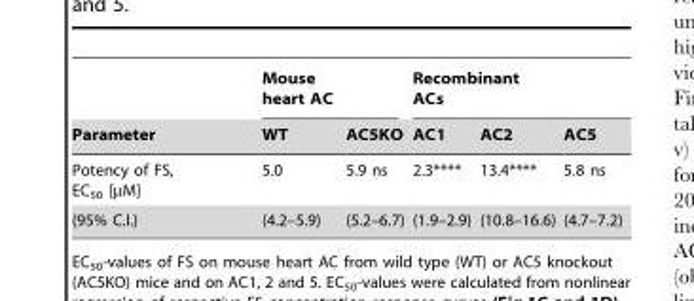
<table><thead><tr><td rowspan="2">Parameter</td><td colspan="2">Mouse heart AC</td><td colspan="3">Recombinant ACs</td></tr><tr><td>WT</td><td>AC5KO</td><td>AC1</td><td>AC2</td><td>AC5</td></tr></thead><tbody><tr><td>Potency of FS, EC<sub>50</sub> [µM]</td><td>5.0</td><td>5.9 ns</td><td>2.3****</td><td>13.4****</td><td>5.8 ns</td></tr><tr><td>(95% C.I.)</td><td>(4.2–5.9)</td><td>(5.2–6.7)</td><td>(1.9–2.9)</td><td>(10.8–16.6)</td><td>(4.7–7.2)</td></tr></tbody></table>